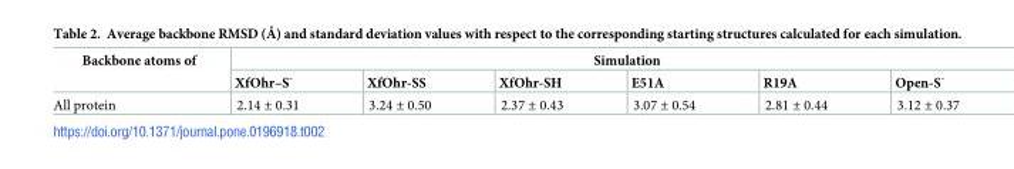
<table><thead><tr><td rowspan="2">Backbone atoms of</td><td colspan="6">Simulation</td></tr><tr><td>XfOhr–S<sup>-</sup></td><td>XfOhr-SS</td><td>XfOhr-SH</td><td>E51A</td><td>R19A</td><td>Open-S<sup>-</sup></td></tr></thead><tbody><tr><td>All protein</td><td>2.14 ± 0.31</td><td>3.24 ± 0.50</td><td>2.37 ± 0.43</td><td>3.07 ± 0.54</td><td>2.81 ± 0.44</td><td>3.12 ± 0.37</td></tr></tbody></table>